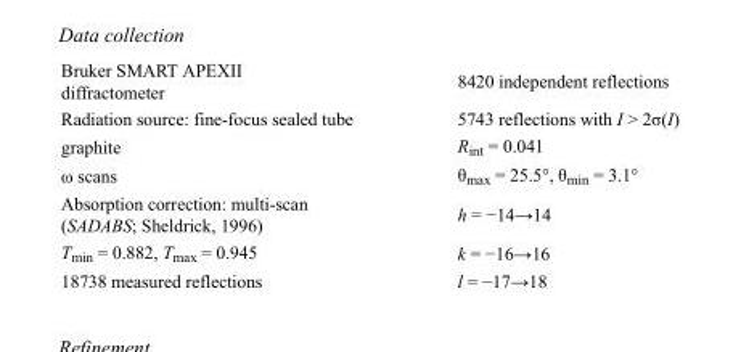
<table><tbody><tr><td>Bruker SMART APEXII diffractometer</td><td>8420 independent reflections</td></tr><tr><td>Radiation source: fine-focus sealed tube</td><td>5743 reflections with I &gt; 2σ(I)</td></tr><tr><td>graphite</td><td>R<sub>int</sub> = 0.041</td></tr><tr><td>ω scans</td><td>θ<sub>max</sub> = 25.5°, θ<sub>min</sub> = 3.1°</td></tr><tr><td>Absorption correction: multi-scan (SADABS; Sheldrick, 1996)</td><td>h = −14→14</td></tr><tr><td>T<sub>min</sub> = 0.882, T<sub>max</sub> = 0.945</td><td>k = −16→16</td></tr><tr><td>18738 measured reflections</td><td>l = −17→18</td></tr></tbody></table>